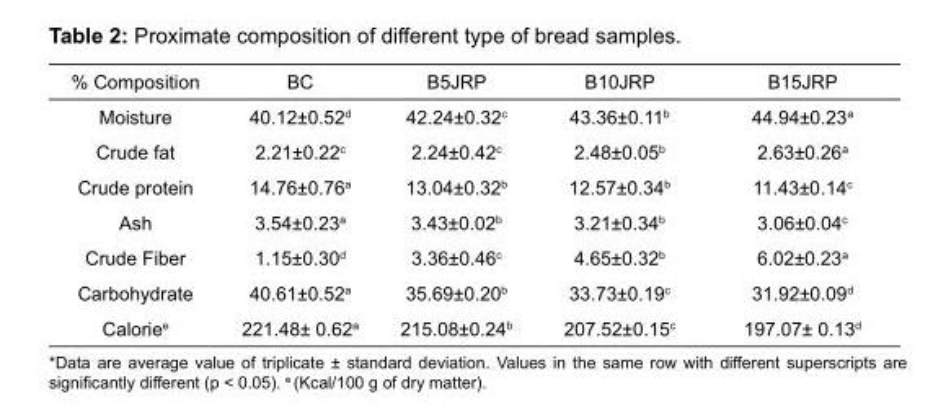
<table><thead><tr><td>% Composition</td><td>BC</td><td>B5JRP</td><td>B10JRP</td><td>B15JRP</td></tr></thead><tbody><tr><td>Moisture</td><td>40.12±0.52<sup>d</sup></td><td>42.24±0.32<sup>c</sup></td><td>43.36±0.11<sup>b</sup></td><td>44.94±0.23<sup>a</sup></td></tr><tr><td>Crude fat</td><td>2.21±0.22<sup>c</sup></td><td>2.24±0.42<sup>c</sup></td><td>2.48±0.05<sup>b</sup></td><td>2.63±0.26<sup>a</sup></td></tr><tr><td>Crude protein</td><td>14.76±0.76<sup>a</sup></td><td>13.04±0.32<sup>b</sup></td><td>12.57±0.34<sup>b</sup></td><td>11.43±0.14<sup>c</sup></td></tr><tr><td>Ash</td><td>3.54±0.23<sup>a</sup></td><td>3.43±0.02<sup>b</sup></td><td>3.21±0.34<sup>b</sup></td><td>3.06±0.04<sup>c</sup></td></tr><tr><td>Crude Fiber</td><td>1.15±0.30<sup>d</sup></td><td>3.36±0.46<sup>c</sup></td><td>4.65±0.32<sup>b</sup></td><td>6.02±0.23<sup>a</sup></td></tr><tr><td>Carbohydrate</td><td>40.61±0.52<sup>a</sup></td><td>35.69±0.20<sup>b</sup></td><td>33.73±0.19<sup>c</sup></td><td>31.92±0.09<sup>d</sup></td></tr><tr><td>Calorie<sup>e</sup></td><td>221.48± 0.62<sup>a</sup></td><td>215.08±0.24<sup>b</sup></td><td>207.52±0.15<sup>c</sup></td><td>197.07± 0.13<sup>d</sup></td></tr></tbody></table>